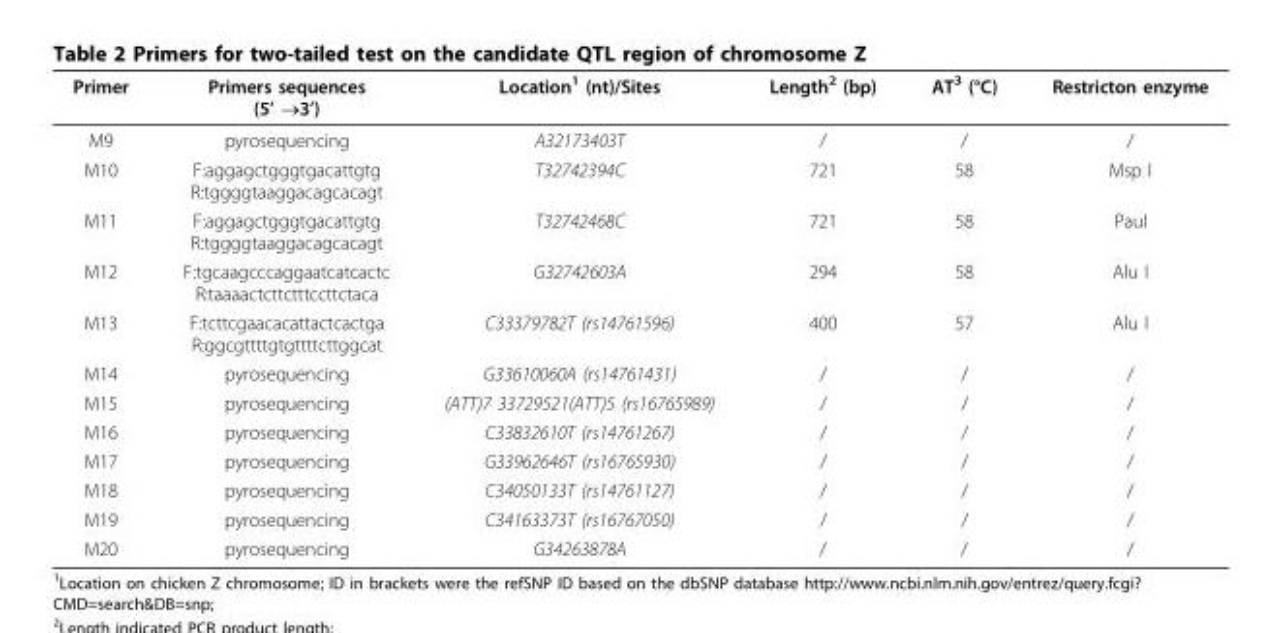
<table><thead><tr><td>Primer</td><td>Primers sequences (5’ →3’)</td><td>Location<sup>1</sup> (nt)/Sites</td><td>Length<sup>2</sup> (bp)</td><td>AT<sup>3</sup> (°C)</td><td>Restricton enzyme</td></tr></thead><tbody><tr><td>M9</td><td>pyrosequencing</td><td>A32173403T</td><td>/</td><td>/</td><td>/</td></tr><tr><td>M10</td><td>F:aggagctgggtgacattgtg R:tggggtaaggacagcacagt</td><td>T32742394C</td><td>721</td><td>58</td><td>Msp I</td></tr><tr><td>M11</td><td>F:aggagctgggtgacattgtg R:tggggtaaggacagcacagt</td><td>T32742468C</td><td>721</td><td>58</td><td>PauI</td></tr><tr><td>M12</td><td>F:tgcaagcccaggaatcatcactc R:taaaactcttctttccttctaca</td><td>G32742603A</td><td>294</td><td>58</td><td>Alu I</td></tr><tr><td>M13</td><td>F:tcttcgaacacattactcactga R:ggcgttttgtgttttcttggcat</td><td>C33379782T (rs14761596)</td><td>400</td><td>57</td><td>Alu I</td></tr><tr><td>M14</td><td>pyrosequencing</td><td>G33610060A (rs14761431)</td><td>/</td><td>/</td><td>/</td></tr><tr><td>M15</td><td>pyrosequencing</td><td>(ATT)7 33729521(ATT)5 (rs16765989)</td><td>/</td><td>/</td><td>/</td></tr><tr><td>M16</td><td>pyrosequencing</td><td>C33832610T (rs14761267)</td><td>/</td><td>/</td><td>/</td></tr><tr><td>M17</td><td>pyrosequencing</td><td>G33962646T (rs16765930)</td><td>/</td><td>/</td><td>/</td></tr><tr><td>M18</td><td>pyrosequencing</td><td>C34050133T (rs14761127)</td><td>/</td><td>/</td><td>/</td></tr><tr><td>M19</td><td>pyrosequencing</td><td>C34163373T (rs16767050)</td><td>/</td><td>/</td><td>/</td></tr><tr><td>M20</td><td>pyrosequencing</td><td>G34263878A</td><td>/</td><td>/</td><td>/</td></tr></tbody></table>